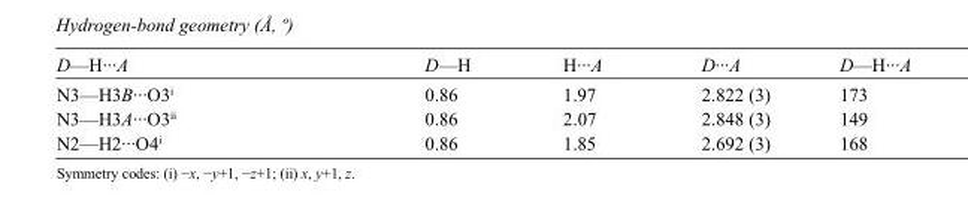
<table><tbody><tr><td>D—H···A</td><td>D—H</td><td>H···A</td><td>D···A</td><td>D—H···A</td></tr><tr><td>N3—H3B···O3<sup>i</sup></td><td>0.86</td><td>1.97</td><td>2.822 (3)</td><td>173</td></tr><tr><td>N3—H3A···O3<sup>ii</sup></td><td>0.86</td><td>2.07</td><td>2.848 (3)</td><td>149</td></tr><tr><td>N2—H2···O4<sup>i</sup></td><td>0.86</td><td>1.85</td><td>2.692 (3)</td><td>168</td></tr></tbody></table>